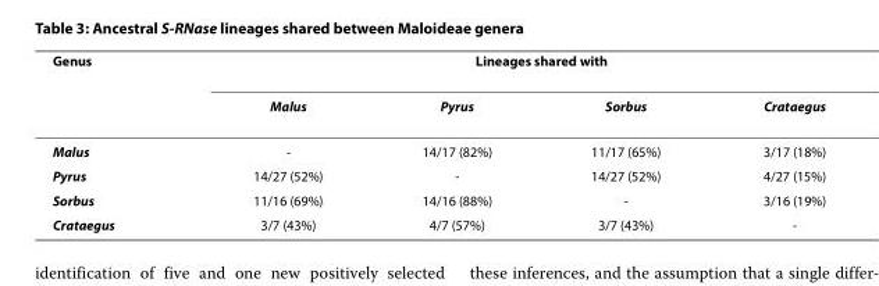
<table><thead><tr><td rowspan="2">Genus</td><td colspan="4">Lineages shared with</td></tr><tr><td>Malus</td><td>Pyrus</td><td>Sorbus</td><td>Crataegus</td></tr></thead><tbody><tr><td>Malus</td><td>-</td><td>14/17 (82%)</td><td>11/17 (65%)</td><td>3/17 (18%)</td></tr><tr><td>Pyrus</td><td>14/27 (52%)</td><td>-</td><td>14/27 (52%)</td><td>4/27 (15%)</td></tr><tr><td>Sorbus</td><td>11/16 (69%)</td><td>14/16 (88%)</td><td>-</td><td>3/16 (19%)</td></tr><tr><td>Crataegus</td><td>3/7 (43%)</td><td>4/7 (57%)</td><td>3/7 (43%)</td><td>-</td></tr></tbody></table>